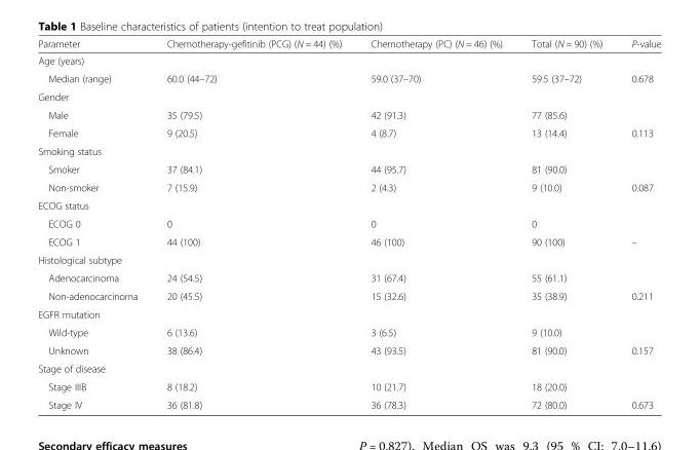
<table><thead><tr><td>Parameter</td><td>Chemotherapy-gefitinib (PCG) (N = 44) (%)</td><td>Chemotherapy (PC) (N = 46) (%)</td><td>Total (N = 90) (%)</td><td>P-value</td></tr></thead><tbody><tr><td colspan="5">Age (years)</td></tr><tr><td>Median (range)</td><td>60.0 (44–72)</td><td>59.0 (37–70)</td><td>59.5 (37–72)</td><td>0.678</td></tr><tr><td colspan="5">Gender</td></tr><tr><td>Male</td><td>35 (79.5)</td><td>42 (91.3)</td><td>77 (85.6)</td><td></td></tr><tr><td>Female</td><td>9 (20.5)</td><td>4 (8.7)</td><td>13 (14.4)</td><td>0.113</td></tr><tr><td colspan="5">Smoking status</td></tr><tr><td>Smoker</td><td>37 (84.1)</td><td>44 (95.7)</td><td>81 (90.0)</td><td></td></tr><tr><td>Non-smoker</td><td>7 (15.9)</td><td>2 (4.3)</td><td>9 (10.0)</td><td>0.087</td></tr><tr><td colspan="5">ECOG status</td></tr><tr><td>ECOG 0</td><td>0</td><td>0</td><td>0</td><td></td></tr><tr><td>ECOG 1</td><td>44 (100)</td><td>46 (100)</td><td>90 (100)</td><td>–</td></tr><tr><td colspan="5">Histological subtype</td></tr><tr><td>Adenocarcinoma</td><td>24 (54.5)</td><td>31 (67.4)</td><td>55 (61.1)</td><td></td></tr><tr><td>Non-adenocarcinoma</td><td>20 (45.5)</td><td>15 (32.6)</td><td>35 (38.9)</td><td>0.211</td></tr><tr><td colspan="5">EGFR mutation</td></tr><tr><td>Wild-type</td><td>6 (13.6)</td><td>3 (6.5)</td><td>9 (10.0)</td><td></td></tr><tr><td>Unknown</td><td>38 (86.4)</td><td>43 (93.5)</td><td>81 (90.0)</td><td>0.157</td></tr><tr><td colspan="5">Stage of disease</td></tr><tr><td>Stage IIIB</td><td>8 (18.2)</td><td>10 (21.7)</td><td>18 (20.0)</td><td></td></tr><tr><td>Stage IV</td><td>36 (81.8)</td><td>36 (78.3)</td><td>72 (80.0)</td><td>0.673</td></tr></tbody></table>